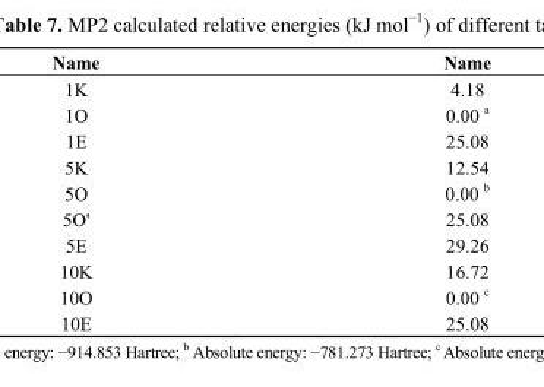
<table><thead><tr><td>Name</td><td>Name</td></tr></thead><tbody><tr><td>1K</td><td>4.18</td></tr><tr><td>1O</td><td>0.00 a</td></tr><tr><td>1E</td><td>25.08</td></tr><tr><td>5K</td><td>12.54</td></tr><tr><td>5O</td><td>0.00 b</td></tr><tr><td>5O&#x27;</td><td>25.08</td></tr><tr><td>5E</td><td>29.26</td></tr><tr><td>10K</td><td>16.72</td></tr><tr><td>10O</td><td>0.00 c</td></tr><tr><td>10E</td><td>25.08</td></tr></tbody></table>